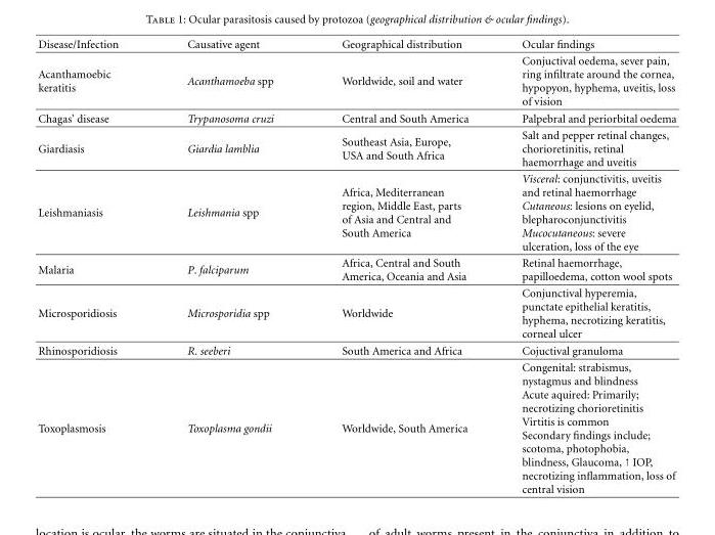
<table><thead><tr><td>Disease/Infection</td><td>Causative agent</td><td>Geographical distribution</td><td>Ocular findings</td></tr></thead><tbody><tr><td>Acanthamoebic keratitis</td><td>Acanthamoeba spp</td><td>Worldwide, soil and water</td><td>Conjuctival oedema, sever pain, ring infiltrate around the cornea, hypopyon, hyphema, uveitis, loss of vision</td></tr><tr><td>Chagas’ disease</td><td>Trypanosoma cruzi</td><td>Central and South America</td><td>Palpebral and periorbital oedema</td></tr><tr><td>Giardiasis</td><td>Giardia lamblia</td><td>Southeast Asia, Europe, USA and South Africa</td><td>Salt and pepper retinal changes, chorioretinitis, retinal haemorrhage and uveitis</td></tr><tr><td>Leishmaniasis</td><td>Leishmania spp</td><td>Africa, Mediterranean region, Middle East, parts of Asia and Central and South America</td><td>Visceral: conjunctivitis, uveitis and retinal haemorrhage Cutaneous: lesions on eyelid, blepharoconjunctivitis Mucocutaneous: severe ulceration, loss of the eye</td></tr><tr><td>Malaria</td><td>P. falciparum</td><td>Africa, Central and South America, Oceania and Asia</td><td>Retinal haemorrhage, papilloedema, cotton wool spots</td></tr><tr><td>Microsporidiosis</td><td>Microsporidia spp</td><td>Worldwide</td><td>Conjunctival hyperemia, punctate epithelial keratitis, hyphema, necrotizing keratitis, corneal ulcer</td></tr><tr><td>Rhinosporidiosis</td><td>R. seeberi</td><td>South America and Africa</td><td>Cojuctival granuloma</td></tr><tr><td>Toxoplasmosis</td><td>Toxoplasma gondii</td><td>Worldwide, South America</td><td>Congenital: strabismus, nystagmus and blindness Acute aquired: Primarily; necrotizing chorioretinitis Virtitis is common Secondary findings include; scotoma, photophobia, blindness, Glaucoma, ↑ IOP, necrotizing inflammation, loss of central vision</td></tr></tbody></table>